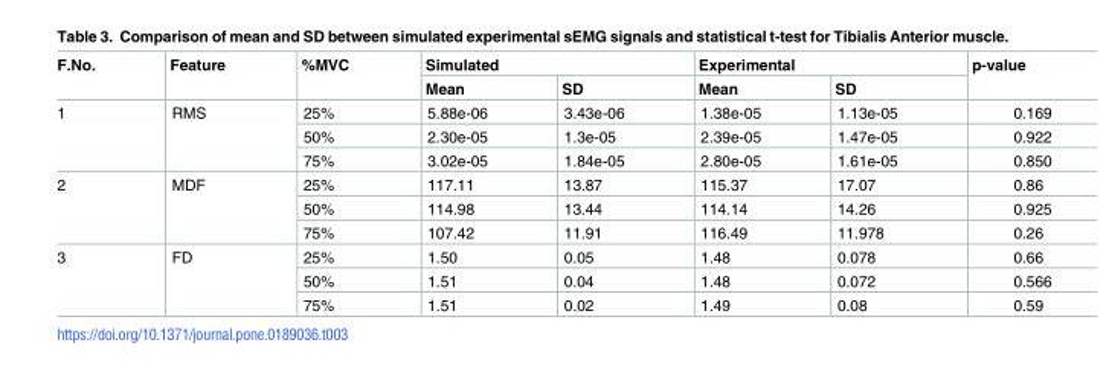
<table><thead><tr><td rowspan="2">F.No.</td><td rowspan="2">Feature</td><td rowspan="2">%MVC</td><td colspan="2">Simulated</td><td colspan="2">Experimental</td><td rowspan="2">p-value</td></tr><tr><td>Mean</td><td>SD</td><td>Mean</td><td>SD</td></tr></thead><tbody><tr><td rowspan="3">1</td><td rowspan="3">RMS</td><td>25%</td><td>5.88e-06</td><td>3.43e-06</td><td>1.38e-05</td><td>1.13e-05</td><td>0.169</td></tr><tr><td>50%</td><td>2.30e-05</td><td>1.3e-05</td><td>2.39e-05</td><td>1.47e-05</td><td>0.922</td></tr><tr><td>75%</td><td>3.02e-05</td><td>1.84e-05</td><td>2.80e-05</td><td>1.61e-05</td><td>0.850</td></tr><tr><td rowspan="3">2</td><td rowspan="3">MDF</td><td>25%</td><td>117.11</td><td>13.87</td><td>115.37</td><td>17.07</td><td>0.86</td></tr><tr><td>50%</td><td>114.98</td><td>13.44</td><td>114.14</td><td>14.26</td><td>0.925</td></tr><tr><td>75%</td><td>107.42</td><td>11.91</td><td>116.49</td><td>11.978</td><td>0.26</td></tr><tr><td rowspan="3">3</td><td rowspan="3">FD</td><td>25%</td><td>1.50</td><td>0.05</td><td>1.48</td><td>0.078</td><td>0.66</td></tr><tr><td>50%</td><td>1.51</td><td>0.04</td><td>1.48</td><td>0.072</td><td>0.566</td></tr><tr><td>75%</td><td>1.51</td><td>0.02</td><td>1.49</td><td>0.08</td><td>0.59</td></tr></tbody></table>